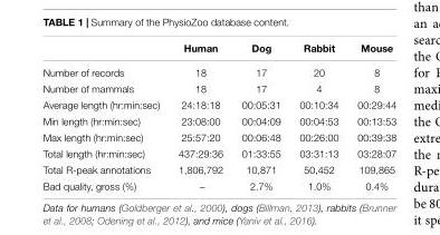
<table><thead><tr><td></td><td>Human</td><td>Dog</td><td>Rabbit</td><td>Mouse</td></tr></thead><tbody><tr><td>Number of records</td><td>18</td><td>17</td><td>20</td><td>8</td></tr><tr><td>Number of mammals</td><td>18</td><td>17</td><td>4</td><td>8</td></tr><tr><td>Average length (hr:min:sec)</td><td>24:18:18</td><td>00:05:31</td><td>00:10:34</td><td>00:29:44</td></tr><tr><td>Min length (hr:min:sec)</td><td>23:08:00</td><td>00:04:09</td><td>00:04:53</td><td>00:13:53</td></tr><tr><td>Max length (hr:min:sec)</td><td>25:57:20</td><td>00:06:48</td><td>00:26:00</td><td>00:39:38</td></tr><tr><td>Total length (hr:min:sec)</td><td>437:29:36</td><td>01:33:55</td><td>03:31:13</td><td>03:28:07</td></tr><tr><td>Total R-peak annotations</td><td>1,806,792</td><td>10,871</td><td>50,452</td><td>109,865</td></tr><tr><td>Bad quality, gross (%)</td><td>–</td><td>2.7%</td><td>1.0%</td><td>0.4%</td></tr></tbody></table>